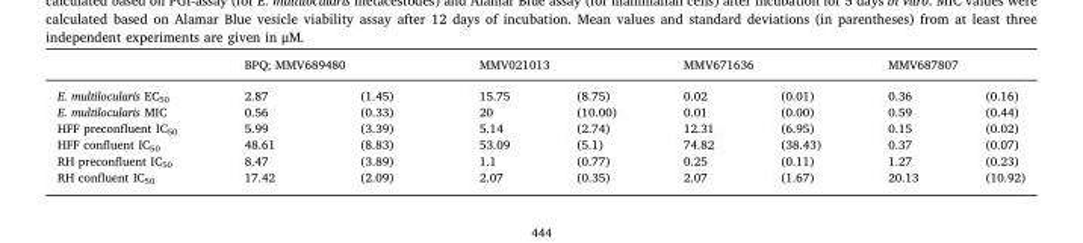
<table><thead><tr><td rowspan="2">E. multilocularis EC<sub>50</sub></td><td colspan="2">BPQ; MMV689480</td><td colspan="2">MMV021013</td><td colspan="2">MMV671636</td><td colspan="2">MMV687807</td></tr><tr><td>2.87</td><td>(1.45)</td><td>15.75</td><td>(8.75)</td><td>0.02</td><td>(0.01)</td><td>0.36</td><td>(0.16)</td></tr></thead><tbody><tr><td>E. multilocularis MIC</td><td>0.56</td><td>(0.33)</td><td>20</td><td>(10.00)</td><td>0.01</td><td>(0.00)</td><td>0.59</td><td>(0.44)</td></tr><tr><td>HFF preconfluent IC<sub>50</sub></td><td>5.99</td><td>(3.39)</td><td>5.14</td><td>(2.74)</td><td>12.31</td><td>(6.95)</td><td>0.15</td><td>(0.02)</td></tr><tr><td>HFF confluent IC<sub>50</sub></td><td>48.61</td><td>(8.83)</td><td>53.09</td><td>(5.1)</td><td>74.82</td><td>(38.43)</td><td>0.37</td><td>(0.07)</td></tr><tr><td>RH preconfluent IC<sub>50</sub></td><td>8.47</td><td>(3.89)</td><td>1.1</td><td>(0.77)</td><td>0.25</td><td>(0.11)</td><td>1.27</td><td>(0.23)</td></tr><tr><td>RH confluent IC<sub>50</sub></td><td>17.42</td><td>(2.09)</td><td>2.07</td><td>(0.35)</td><td>2.07</td><td>(1.67)</td><td>20.13</td><td>(10.92)</td></tr></tbody></table>